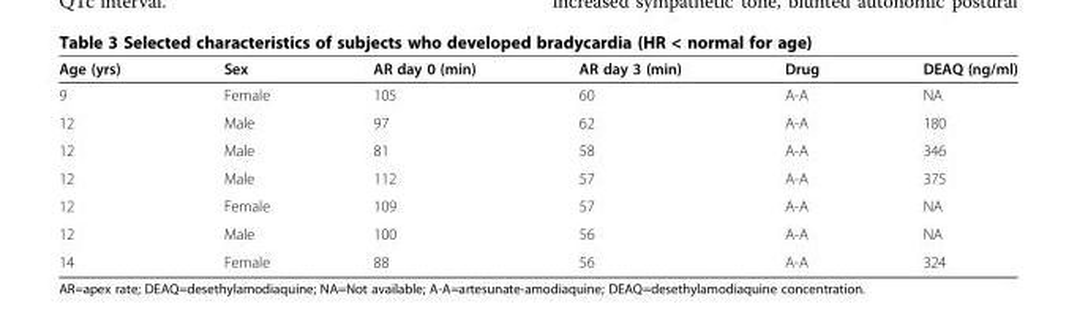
<table><thead><tr><td>Age (yrs)</td><td>Sex</td><td>AR day 0 (min)</td><td>AR day 3 (min)</td><td>Drug</td><td>DEAQ (ng/ml)</td></tr></thead><tbody><tr><td>9</td><td>Female</td><td>105</td><td>60</td><td>A-A</td><td>NA</td></tr><tr><td>12</td><td>Male</td><td>97</td><td>62</td><td>A-A</td><td>180</td></tr><tr><td>12</td><td>Male</td><td>81</td><td>58</td><td>A-A</td><td>346</td></tr><tr><td>12</td><td>Male</td><td>112</td><td>57</td><td>A-A</td><td>375</td></tr><tr><td>12</td><td>Female</td><td>109</td><td>57</td><td>A-A</td><td>NA</td></tr><tr><td>12</td><td>Male</td><td>100</td><td>56</td><td>A-A</td><td>NA</td></tr><tr><td>14</td><td>Female</td><td>88</td><td>56</td><td>A-A</td><td>324</td></tr></tbody></table>